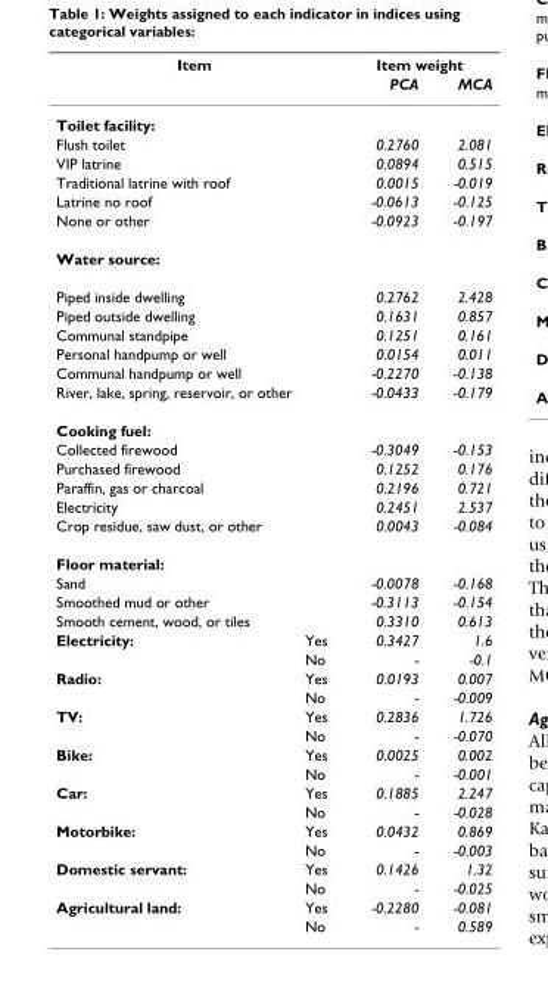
<table><thead><tr><td colspan="2">Item</td><td colspan="2">Item weight</td></tr><tr><td></td><td></td><td>PCA</td><td>MCA</td></tr></thead><tbody><tr><td colspan="4">Toilet facility:</td></tr><tr><td colspan="2">Flush toilet</td><td>0.2760</td><td>2.081</td></tr><tr><td colspan="2">VIP latrine</td><td>0.0894</td><td>0.515</td></tr><tr><td colspan="2">Traditional latrine with roof</td><td>0.0015</td><td>-0.019</td></tr><tr><td colspan="2">Latrine no roof</td><td>-0.0613</td><td>-0.125</td></tr><tr><td colspan="2">None or other</td><td>-0.0923</td><td>-0.197</td></tr><tr><td colspan="4">Water source:</td></tr><tr><td colspan="2">Piped inside dwelling</td><td>0.2762</td><td>2.428</td></tr><tr><td colspan="2">Piped outside dwelling</td><td>0.1631</td><td>0.857</td></tr><tr><td colspan="2">Communal standpipe</td><td>0.1251</td><td>0.161</td></tr><tr><td colspan="2">Personal handpump or well</td><td>0.0154</td><td>0.011</td></tr><tr><td colspan="2">Communal handpump or well</td><td>-0.2270</td><td>-0.138</td></tr><tr><td colspan="2">River, lake, spring, reservoir, or other</td><td>-0.0433</td><td>-0.179</td></tr><tr><td colspan="4">Cooking fuel:</td></tr><tr><td colspan="2">Collected firewood</td><td>-0.3049</td><td>-0.153</td></tr><tr><td colspan="2">Purchased firewood</td><td>0.1252</td><td>0.176</td></tr><tr><td colspan="2">Paraffin, gas or charcoal</td><td>0.2196</td><td>0.721</td></tr><tr><td colspan="2">Electricity</td><td>0.2451</td><td>2.537</td></tr><tr><td colspan="2">Crop residue, saw dust, or other</td><td>0.0043</td><td>-0.084</td></tr><tr><td colspan="4">Floor material:</td></tr><tr><td colspan="2">Sand</td><td>-0.0078</td><td>-0.168</td></tr><tr><td colspan="2">Smoothed mud or other</td><td>-0.3113</td><td>-0.154</td></tr><tr><td colspan="2">Smooth cement, wood, or tiles</td><td>0.3310</td><td>0.613</td></tr><tr><td rowspan="2">Electricity:</td><td>Yes</td><td>0.3427</td><td>1.6</td></tr><tr><td>No</td><td>-</td><td>-0.1</td></tr><tr><td rowspan="2">Radio:</td><td>Yes</td><td>0.0193</td><td>0.007</td></tr><tr><td>No</td><td>-</td><td>-0.009</td></tr><tr><td rowspan="2">TV:</td><td>Yes</td><td>0.2836</td><td>1.726</td></tr><tr><td>No</td><td>-</td><td>-0.070</td></tr><tr><td rowspan="2">Bike:</td><td>Yes</td><td>0.0025</td><td>0.002</td></tr><tr><td>No</td><td>-</td><td>-0.001</td></tr><tr><td rowspan="2">Car:</td><td>Yes</td><td>0.1885</td><td>2.247</td></tr><tr><td>No</td><td>-</td><td>-0.028</td></tr><tr><td rowspan="2">Motorbike:</td><td>Yes</td><td>0.0432</td><td>0.869</td></tr><tr><td>No</td><td>-</td><td>-0.003</td></tr><tr><td rowspan="2">Domestic servant:</td><td>Yes</td><td>0.1426</td><td>1.32</td></tr><tr><td>No</td><td>-</td><td>-0.025</td></tr><tr><td rowspan="2">Agricultural land:</td><td>Yes</td><td>-0.2280</td><td>-0.081</td></tr><tr><td>No</td><td>-</td><td>0.589</td></tr></tbody></table>